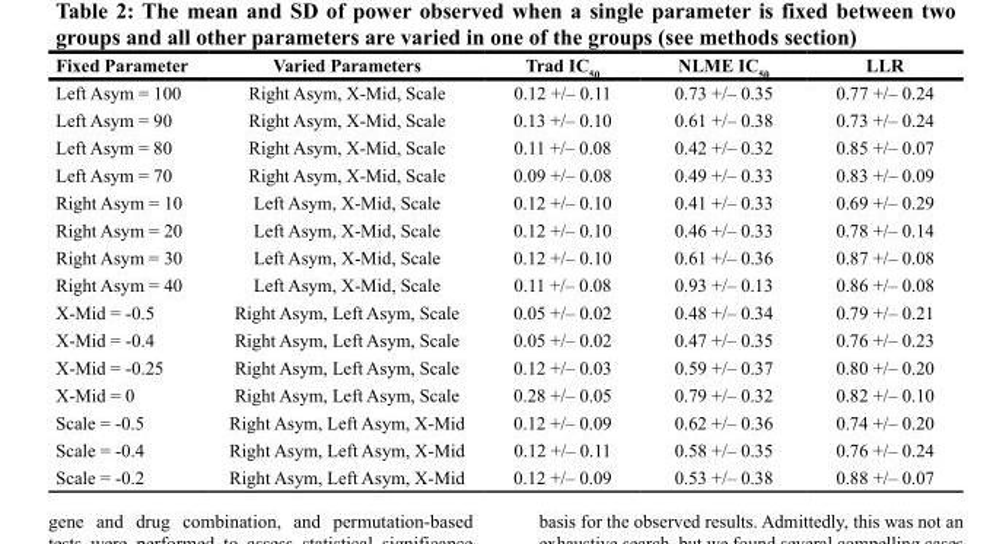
<table><thead><tr><td>Fixed Parameter</td><td>Varied Parameters</td><td>Trad IC<sub>50</sub></td><td>NLME IC<sub>50</sub></td><td>LLR</td></tr></thead><tbody><tr><td>Left Asym = 100</td><td>Right Asym, X-Mid, Scale</td><td>0.12 +/– 0.11</td><td>0.73 +/– 0.35</td><td>0.77 +/– 0.24</td></tr><tr><td>Left Asym = 90</td><td>Right Asym, X-Mid, Scale</td><td>0.13 +/– 0.10</td><td>0.61 +/– 0.38</td><td>0.73 +/– 0.24</td></tr><tr><td>Left Asym = 80</td><td>Right Asym, X-Mid, Scale</td><td>0.11 +/– 0.08</td><td>0.42 +/– 0.32</td><td>0.85 +/– 0.07</td></tr><tr><td>Left Asym = 70</td><td>Right Asym, X-Mid, Scale</td><td>0.09 +/– 0.08</td><td>0.49 +/– 0.33</td><td>0.83 +/– 0.09</td></tr><tr><td>Right Asym = 10</td><td>Left Asym, X-Mid, Scale</td><td>0.12 +/– 0.10</td><td>0.41 +/– 0.33</td><td>0.69 +/– 0.29</td></tr><tr><td>Right Asym = 20</td><td>Left Asym, X-Mid, Scale</td><td>0.12 +/– 0.10</td><td>0.46 +/– 0.33</td><td>0.78 +/– 0.14</td></tr><tr><td>Right Asym = 30</td><td>Left Asym, X-Mid, Scale</td><td>0.12 +/– 0.10</td><td>0.61 +/– 0.36</td><td>0.87 +/– 0.08</td></tr><tr><td>Right Asym = 40</td><td>Left Asym, X-Mid, Scale</td><td>0.11 +/– 0.08</td><td>0.93 +/– 0.13</td><td>0.86 +/– 0.08</td></tr><tr><td>X-Mid = -0.5</td><td>Right Asym, Left Asym, Scale</td><td>0.05 +/– 0.02</td><td>0.48 +/– 0.34</td><td>0.79 +/– 0.21</td></tr><tr><td>X-Mid = -0.4</td><td>Right Asym, Left Asym, Scale</td><td>0.05 +/– 0.02</td><td>0.47 +/– 0.35</td><td>0.76 +/– 0.23</td></tr><tr><td>X-Mid = -0.25</td><td>Right Asym, Left Asym, Scale</td><td>0.12 +/– 0.03</td><td>0.59 +/– 0.37</td><td>0.80 +/– 0.20</td></tr><tr><td>X-Mid = 0</td><td>Right Asym, Left Asym, Scale</td><td>0.28 +/– 0.05</td><td>0.79 +/– 0.32</td><td>0.82 +/– 0.10</td></tr><tr><td>Scale = -0.5</td><td>Right Asym, Left Asym, X-Mid</td><td>0.12 +/– 0.09</td><td>0.62 +/– 0.36</td><td>0.74 +/– 0.20</td></tr><tr><td>Scale = -0.4</td><td>Right Asym, Left Asym, X-Mid</td><td>0.12 +/– 0.11</td><td>0.58 +/– 0.35</td><td>0.76 +/– 0.24</td></tr><tr><td>Scale = -0.2</td><td>Right Asym, Left Asym, X-Mid</td><td>0.12 +/– 0.09</td><td>0.53 +/– 0.38</td><td>0.88 +/– 0.07</td></tr></tbody></table>